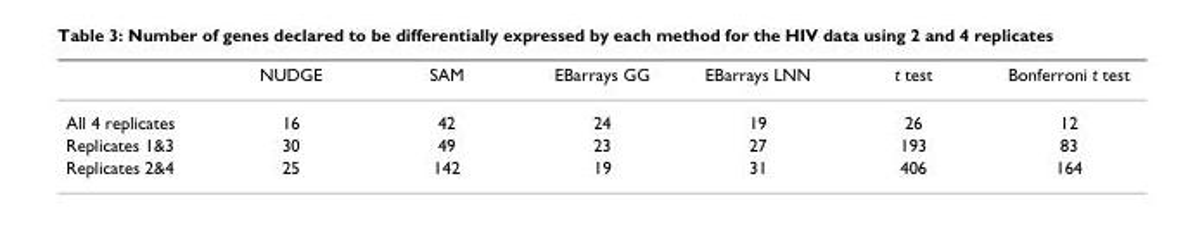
<table><thead><tr><td></td><td>NUDGE</td><td>SAM</td><td>EBarrays GG</td><td>EBarrays LNN</td><td>t test</td><td>Bonferroni t test</td></tr></thead><tbody><tr><td>All 4 replicates</td><td>16</td><td>42</td><td>24</td><td>19</td><td>26</td><td>12</td></tr><tr><td>Replicates 1&amp;3</td><td>30</td><td>49</td><td>23</td><td>27</td><td>193</td><td>83</td></tr><tr><td>Replicates 2&amp;4</td><td>25</td><td>142</td><td>19</td><td>31</td><td>406</td><td>164</td></tr></tbody></table>